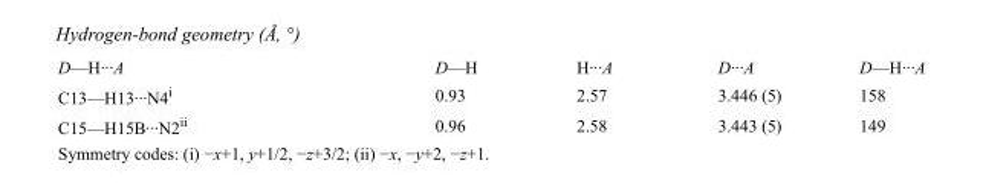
<table><tbody><tr><td>D—H···A</td><td>D—H</td><td>H···A</td><td>D···A</td><td>D—H···A</td></tr><tr><td>C13—H13···N4<sup>i</sup></td><td>0.93</td><td>2.57</td><td>3.446 (5)</td><td>158</td></tr><tr><td>C15—H15B···N2<sup>ii</sup></td><td>0.96</td><td>2.58</td><td>3.443 (5)</td><td>149</td></tr></tbody></table>